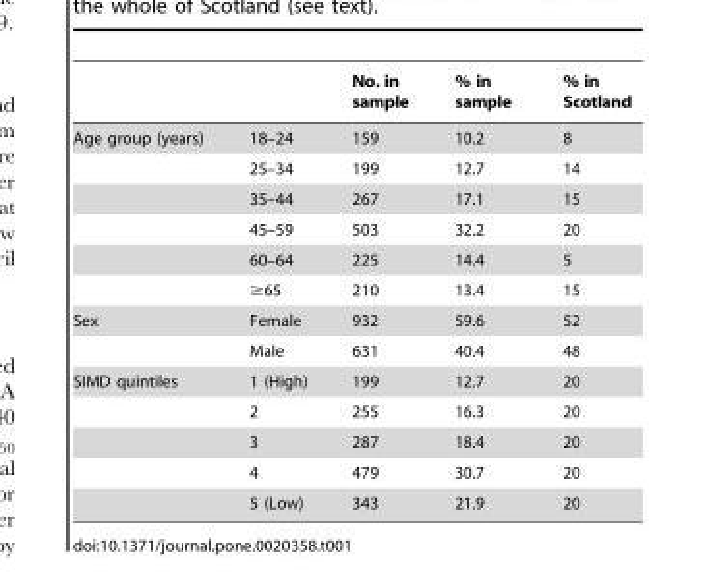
<table><thead><tr><td></td><td></td><td>No. in sample</td><td>% in sample</td><td>% in Scotland</td></tr></thead><tbody><tr><td rowspan="6">Age group (years)</td><td>18–24</td><td>159</td><td>10.2</td><td>8</td></tr><tr><td>25–34</td><td>199</td><td>12.7</td><td>14</td></tr><tr><td>35–44</td><td>267</td><td>17.1</td><td>15</td></tr><tr><td>45–59</td><td>503</td><td>32.2</td><td>20</td></tr><tr><td>60–64</td><td>225</td><td>14.4</td><td>5</td></tr><tr><td>≥65</td><td>210</td><td>13.4</td><td>15</td></tr><tr><td rowspan="2">Sex</td><td>Female</td><td>932</td><td>59.6</td><td>52</td></tr><tr><td>Male</td><td>631</td><td>40.4</td><td>48</td></tr><tr><td rowspan="5">SIMD quintiles</td><td>1 (High)</td><td>199</td><td>12.7</td><td>20</td></tr><tr><td>2</td><td>255</td><td>16.3</td><td>20</td></tr><tr><td>3</td><td>287</td><td>18.4</td><td>20</td></tr><tr><td>4</td><td>479</td><td>30.7</td><td>20</td></tr><tr><td>5 (Low)</td><td>343</td><td>21.9</td><td>20</td></tr></tbody></table>